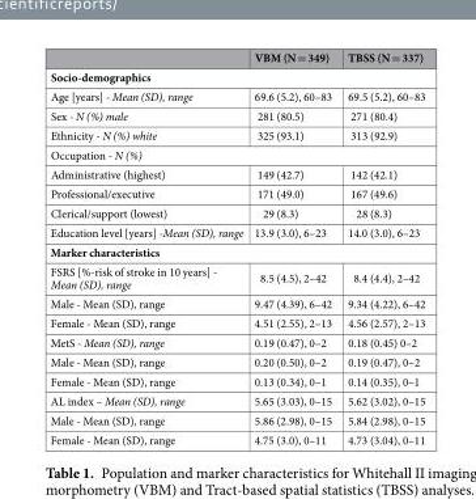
<table><thead><tr><td></td><td>VBM (N = 349)</td><td>TBSS (N = 337)</td></tr></thead><tbody><tr><td colspan="3">Socio-demographics</td></tr><tr><td>Age [years] - Mean (SD), range</td><td>69.6 (5.2), 60–83</td><td>69.5 (5.2), 60–83</td></tr><tr><td>Sex - N (%) male</td><td>281 (80.5)</td><td>271 (80.4)</td></tr><tr><td>Ethnicity - N (%) white</td><td>325 (93.1)</td><td>313 (92.9)</td></tr><tr><td colspan="3">Occupation - N (%)</td></tr><tr><td>Administrative (highest)</td><td>149 (42.7)</td><td>142 (42.1)</td></tr><tr><td>Professional/executive</td><td>171 (49.0)</td><td>167 (49.6)</td></tr><tr><td>Clerical/support (lowest)</td><td>29 (8.3)</td><td>28 (8.3)</td></tr><tr><td>Education level [years] -Mean (SD), range</td><td>13.9 (3.0), 6–23</td><td>14.0 (3.0), 6–23</td></tr><tr><td colspan="3">Marker characteristics</td></tr><tr><td>FSRS [%-risk of stroke in 10 years] - Mean (SD), range</td><td>8.5 (4.5), 2–42</td><td>8.4 (4.4), 2–42</td></tr><tr><td>Male - Mean (SD), range</td><td>9.47 (4.39), 6–42</td><td>9.34 (4.22), 6–42</td></tr><tr><td>Female - Mean (SD), range</td><td>4.51 (2.55), 2–13</td><td>4.56 (2.57), 2–13</td></tr><tr><td>MetS - Mean (SD), range</td><td>0.19 (0.47), 0–2</td><td>0.18 (0.45) 0–2</td></tr><tr><td>Male - Mean (SD), range</td><td>0.20 (0.50), 0–2</td><td>0.19 (0.47), 0–2</td></tr><tr><td>Female - Mean (SD), range</td><td>0.13 (0.34), 0–1</td><td>0.14 (0.35), 0–1</td></tr><tr><td>AL index – Mean (SD), range</td><td>5.65 (3.03), 0–15</td><td>5.62 (3.02), 0–15</td></tr><tr><td>Male - Mean (SD), range</td><td>5.86 (2.98), 0–15</td><td>5.84 (2.98), 0–15</td></tr><tr><td>Female - Mean (SD), range</td><td>4.75 (3.0), 0–11</td><td>4.73 (3.04), 0–11</td></tr></tbody></table>